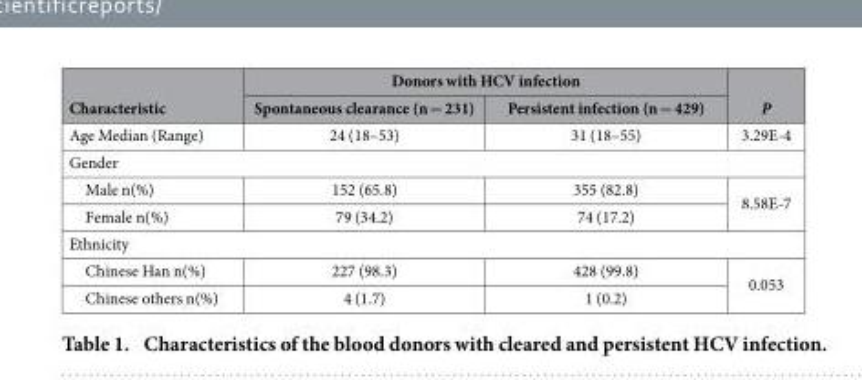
<table><thead><tr><td rowspan="2">Characteristic</td><td colspan="2">Donors with HCV infection</td><td rowspan="2">P</td></tr><tr><td>Spontaneous clearance (n = 231)</td><td>Persistent infection (n = 429)</td></tr></thead><tbody><tr><td>Age Median (Range)</td><td>24 (18–53)</td><td>31 (18–55)</td><td>3.29E-4</td></tr><tr><td colspan="4">Gender</td></tr><tr><td>Male n(%)</td><td>152 (65.8)</td><td>355 (82.8)</td><td rowspan="2">8.58E-7</td></tr><tr><td>Female n(%)</td><td>79 (34.2)</td><td>74 (17.2)</td></tr><tr><td colspan="4">Ethnicity</td></tr><tr><td>Chinese Han n(%)</td><td>227 (98.3)</td><td>428 (99.8)</td><td rowspan="2">0.053</td></tr><tr><td>Chinese others n(%)</td><td>4 (1.7)</td><td>1 (0.2)</td></tr></tbody></table>